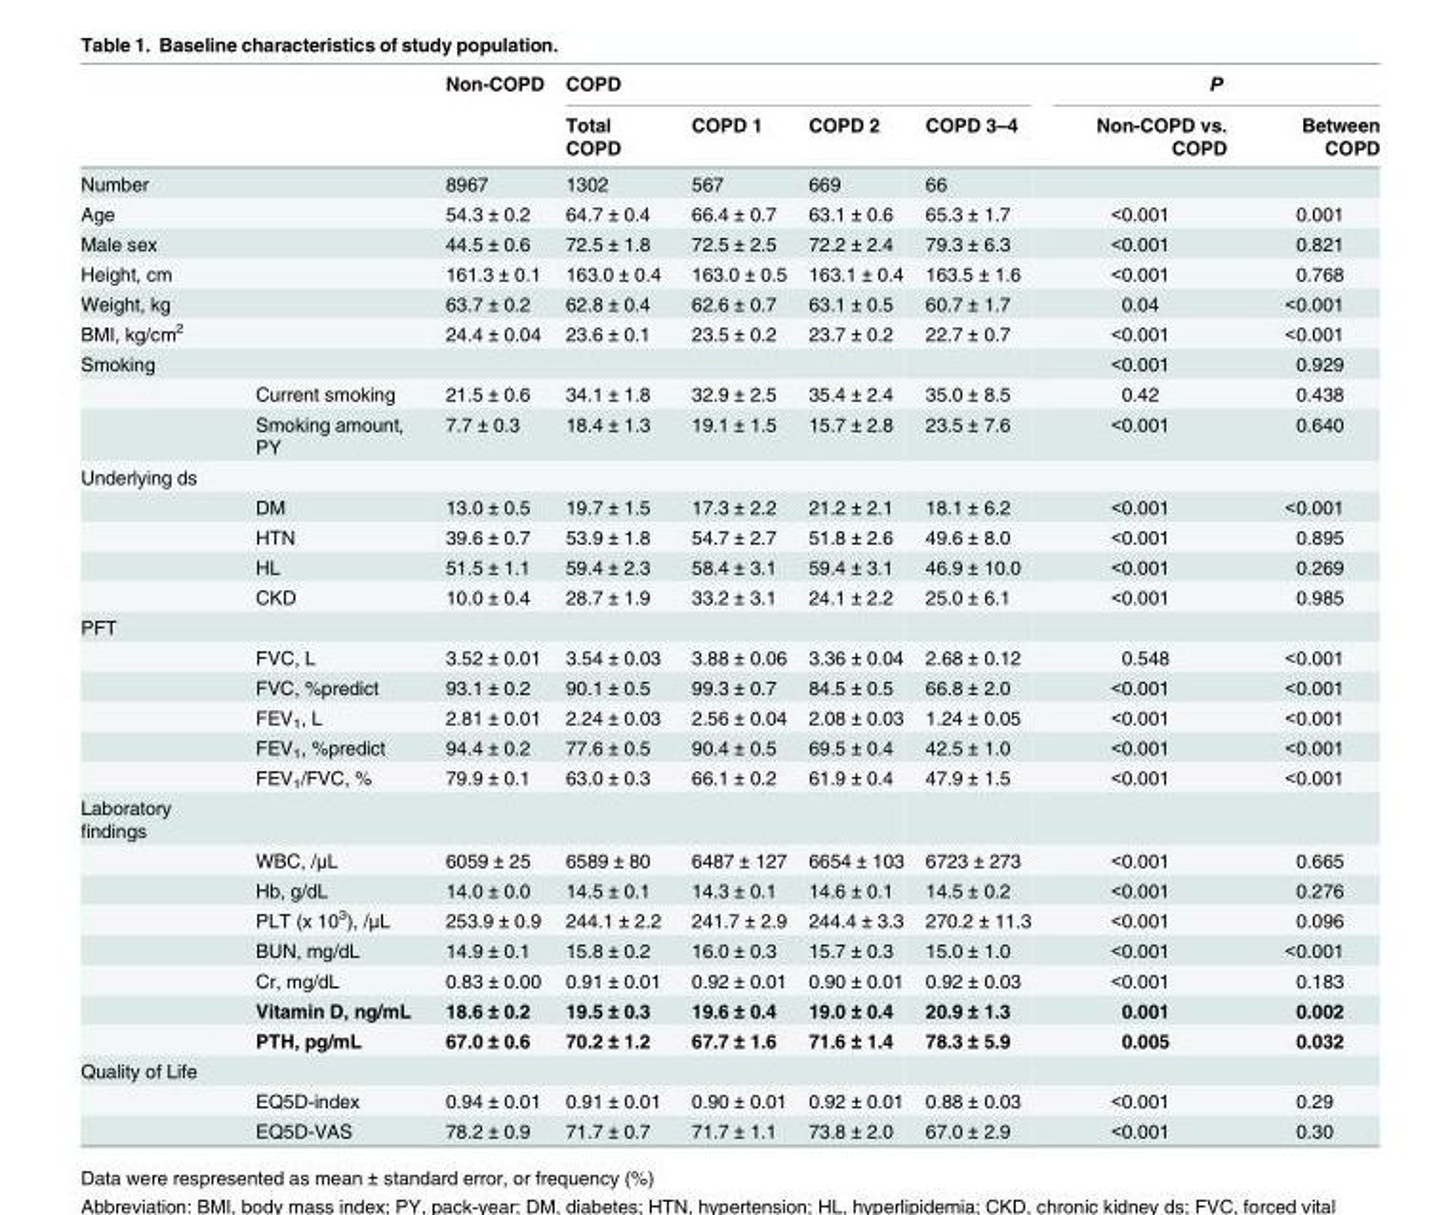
<table><thead><tr><td rowspan="2"></td><td rowspan="2"></td><td rowspan="2">Non-COPD</td><td colspan="4">COPD</td><td colspan="2">P</td></tr><tr><td>Total COPD</td><td>COPD 1</td><td>COPD 2</td><td>COPD 3–4</td><td>Non-COPD vs. COPD</td><td>Between COPD</td></tr></thead><tbody><tr><td>Number</td><td></td><td>8967</td><td>1302</td><td>567</td><td>669</td><td>66</td><td></td><td></td></tr><tr><td>Age</td><td></td><td>54.3 ± 0.2</td><td>64.7 ± 0.4</td><td>66.4 ± 0.7</td><td>63.1 ± 0.6</td><td>65.3 ± 1.7</td><td>&lt;0.001</td><td>0.001</td></tr><tr><td>Male sex</td><td></td><td>44.5 ± 0.6</td><td>72.5 ± 1.8</td><td>72.5 ± 2.5</td><td>72.2 ± 2.4</td><td>79.3 ± 6.3</td><td>&lt;0.001</td><td>0.821</td></tr><tr><td>Height, cm</td><td></td><td>161.3 ± 0.1</td><td>163.0 ± 0.4</td><td>163.0 ± 0.5</td><td>163.1 ± 0.4</td><td>163.5 ± 1.6</td><td>&lt;0.001</td><td>0.768</td></tr><tr><td>Weight, kg</td><td></td><td>63.7 ± 0.2</td><td>62.8 ± 0.4</td><td>62.6 ± 0.7</td><td>63.1 ± 0.5</td><td>60.7 ± 1.7</td><td>0.04</td><td>&lt;0.001</td></tr><tr><td>BMI, kg/cm<sup>2</sup></td><td></td><td>24.4 ± 0.04</td><td>23.6 ± 0.1</td><td>23.5 ± 0.2</td><td>23.7 ± 0.2</td><td>22.7 ± 0.7</td><td>&lt;0.001</td><td>&lt;0.001</td></tr><tr><td rowspan="3">Smoking</td><td></td><td></td><td></td><td></td><td></td><td></td><td>&lt;0.001</td><td>0.929</td></tr><tr><td>Current smoking</td><td>21.5 ± 0.6</td><td>34.1 ± 1.8</td><td>32.9 ± 2.5</td><td>35.4 ± 2.4</td><td>35.0 ± 8.5</td><td>0.42</td><td>0.438</td></tr><tr><td>Smoking amount, PY</td><td>7.7 ± 0.3</td><td>18.4 ± 1.3</td><td>19.1 ± 1.5</td><td>15.7 ± 2.8</td><td>23.5 ± 7.6</td><td>&lt;0.001</td><td>0.640</td></tr><tr><td colspan="9">Underlying ds</td></tr><tr><td></td><td>DM</td><td>13.0 ± 0.5</td><td>19.7 ± 1.5</td><td>17.3 ± 2.2</td><td>21.2 ± 2.1</td><td>18.1 ± 6.2</td><td>&lt;0.001</td><td>&lt;0.001</td></tr><tr><td></td><td>HTN</td><td>39.6 ± 0.7</td><td>53.9 ± 1.8</td><td>54.7 ± 2.7</td><td>51.8 ± 2.6</td><td>49.6 ± 8.0</td><td>&lt;0.001</td><td>0.895</td></tr><tr><td></td><td>HL</td><td>51.5 ± 1.1</td><td>59.4 ± 2.3</td><td>58.4 ± 3.1</td><td>59.4 ± 3.1</td><td>46.9 ± 10.0</td><td>&lt;0.001</td><td>0.269</td></tr><tr><td></td><td>CKD</td><td>10.0 ± 0.4</td><td>28.7 ± 1.9</td><td>33.2 ± 3.1</td><td>24.1 ± 2.2</td><td>25.0 ± 6.1</td><td>&lt;0.001</td><td>0.985</td></tr><tr><td colspan="9">PFT</td></tr><tr><td></td><td>FVC, L</td><td>3.52 ± 0.01</td><td>3.54 ± 0.03</td><td>3.88 ± 0.06</td><td>3.36 ± 0.04</td><td>2.68 ± 0.12</td><td>0.548</td><td>&lt;0.001</td></tr><tr><td></td><td>FVC, %predict</td><td>93.1 ± 0.2</td><td>90.1 ± 0.5</td><td>99.3 ± 0.7</td><td>84.5 ± 0.5</td><td>66.8 ± 2.0</td><td>&lt;0.001</td><td>&lt;0.001</td></tr><tr><td></td><td>FEV<sub>1</sub>, L</td><td>2.81 ± 0.01</td><td>2.24 ± 0.03</td><td>2.56 ± 0.04</td><td>2.08 ± 0.03</td><td>1.24 ± 0.05</td><td>&lt;0.001</td><td>&lt;0.001</td></tr><tr><td></td><td>FEV<sub>1</sub>, %predict</td><td>94.4 ± 0.2</td><td>77.6 ± 0.5</td><td>90.4 ± 0.5</td><td>69.5 ± 0.4</td><td>42.5 ± 1.0</td><td>&lt;0.001</td><td>&lt;0.001</td></tr><tr><td></td><td>FEV<sub>1</sub>/FVC, %</td><td>79.9 ± 0.1</td><td>63.0 ± 0.3</td><td>66.1 ± 0.2</td><td>61.9 ± 0.4</td><td>47.9 ± 1.5</td><td>&lt;0.001</td><td>&lt;0.001</td></tr><tr><td colspan="9">Laboratory findings</td></tr><tr><td></td><td>WBC, /μL</td><td>6059 ± 25</td><td>6589 ± 80</td><td>6487 ± 127</td><td>6654 ± 103</td><td>6723 ± 273</td><td>&lt;0.001</td><td>0.665</td></tr><tr><td></td><td>Hb, g/dL</td><td>14.0 ± 0.0</td><td>14.5 ± 0.1</td><td>14.3 ± 0.1</td><td>14.6 ± 0.1</td><td>14.5 ± 0.2</td><td>&lt;0.001</td><td>0.276</td></tr><tr><td></td><td>PLT (x 10<sup>3</sup>), /μL</td><td>253.9 ± 0.9</td><td>244.1 ± 2.2</td><td>241.7 ± 2.9</td><td>244.4 ± 3.3</td><td>270.2 ± 11.3</td><td>&lt;0.001</td><td>0.096</td></tr><tr><td></td><td>BUN, mg/dL</td><td>14.9 ± 0.1</td><td>15.8 ± 0.2</td><td>16.0 ± 0.3</td><td>15.7 ± 0.3</td><td>15.0 ± 1.0</td><td>&lt;0.001</td><td>&lt;0.001</td></tr><tr><td></td><td>Cr, mg/dL</td><td>0.83 ± 0.00</td><td>0.91 ± 0.01</td><td>0.92 ± 0.01</td><td>0.90 ± 0.01</td><td>0.92 ± 0.03</td><td>&lt;0.001</td><td>0.183</td></tr><tr><td></td><td>Vitamin D, ng/mL</td><td>18.6 ± 0.2</td><td>19.5 ± 0.3</td><td>19.6 ± 0.4</td><td>19.0 ± 0.4</td><td>20.9 ± 1.3</td><td>0.001</td><td>0.002</td></tr><tr><td></td><td>PTH, pg/mL</td><td>67.0 ± 0.6</td><td>70.2 ± 1.2</td><td>67.7 ± 1.6</td><td>71.6 ± 1.4</td><td>78.3 ± 5.9</td><td>0.005</td><td>0.032</td></tr><tr><td colspan="9">Quality of Life</td></tr><tr><td></td><td>EQ5D-index</td><td>0.94 ± 0.01</td><td>0.91 ± 0.01</td><td>0.90 ± 0.01</td><td>0.92 ± 0.01</td><td>0.88 ± 0.03</td><td>&lt;0.001</td><td>0.29</td></tr><tr><td></td><td>EQ5D-VAS</td><td>78.2 ± 0.9</td><td>71.7 ± 0.7</td><td>71.7 ± 1.1</td><td>73.8 ± 2.0</td><td>67.0 ± 2.9</td><td>&lt;0.001</td><td>0.30</td></tr></tbody></table>